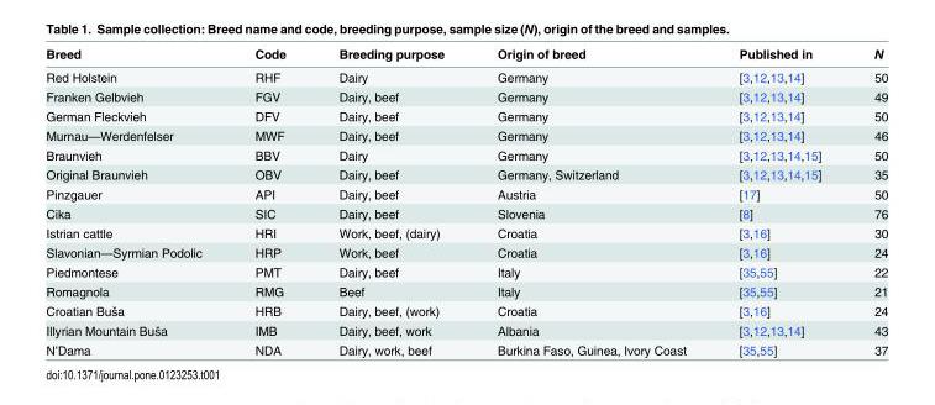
<table><thead><tr><td>Breed</td><td>Code</td><td>Breeding purpose</td><td>Origin of breed</td><td>Published in</td><td>N</td></tr></thead><tbody><tr><td>Red Holstein</td><td>RHF</td><td>Dairy</td><td>Germany</td><td>[3,12,13,14]</td><td>50</td></tr><tr><td>Franken Gelbvieh</td><td>FGV</td><td>Dairy, beef</td><td>Germany</td><td>[3,12,13,14]</td><td>49</td></tr><tr><td>German Fleckvieh</td><td>DFV</td><td>Dairy, beef</td><td>Germany</td><td>[3,12,13,14]</td><td>50</td></tr><tr><td>Murnau—Werdenfelser</td><td>MWF</td><td>Dairy, beef</td><td>Germany</td><td>[3,12,13,14]</td><td>46</td></tr><tr><td>Braunvieh</td><td>BBV</td><td>Dairy</td><td>Germany</td><td>[3,12,13,14,15]</td><td>50</td></tr><tr><td>Original Braunvieh</td><td>OBV</td><td>Dairy, beef</td><td>Germany, Switzerland</td><td>[3,12,13,14,15]</td><td>35</td></tr><tr><td>Pinzgauer</td><td>API</td><td>Dairy, beef</td><td>Austria</td><td>[17]</td><td>50</td></tr><tr><td>Cika</td><td>SIC</td><td>Dairy, beef</td><td>Slovenia</td><td>[8]</td><td>76</td></tr><tr><td>Istrian cattle</td><td>HRI</td><td>Work, beef, (dairy)</td><td>Croatia</td><td>[3,16]</td><td>30</td></tr><tr><td>Slavonian—Syrmian Podolic</td><td>HRP</td><td>Work, beef</td><td>Croatia</td><td>[3,16]</td><td>24</td></tr><tr><td>Piedmontese</td><td>PMT</td><td>Dairy, beef</td><td>Italy</td><td>[35,55]</td><td>22</td></tr><tr><td>Romagnola</td><td>RMG</td><td>Beef</td><td>Italy</td><td>[35,55]</td><td>21</td></tr><tr><td>Croatian Buša</td><td>HRB</td><td>Dairy, beef, (work)</td><td>Croatia</td><td>[3,16]</td><td>24</td></tr><tr><td>Illyrian Mountain Buša</td><td>IMB</td><td>Dairy, beef, work</td><td>Albania</td><td>[3,12,13,14]</td><td>43</td></tr><tr><td>N’Dama</td><td>NDA</td><td>Dairy, work, beef</td><td>Burkina Faso, Guinea, Ivory Coast</td><td>[35,55]</td><td>37</td></tr></tbody></table>